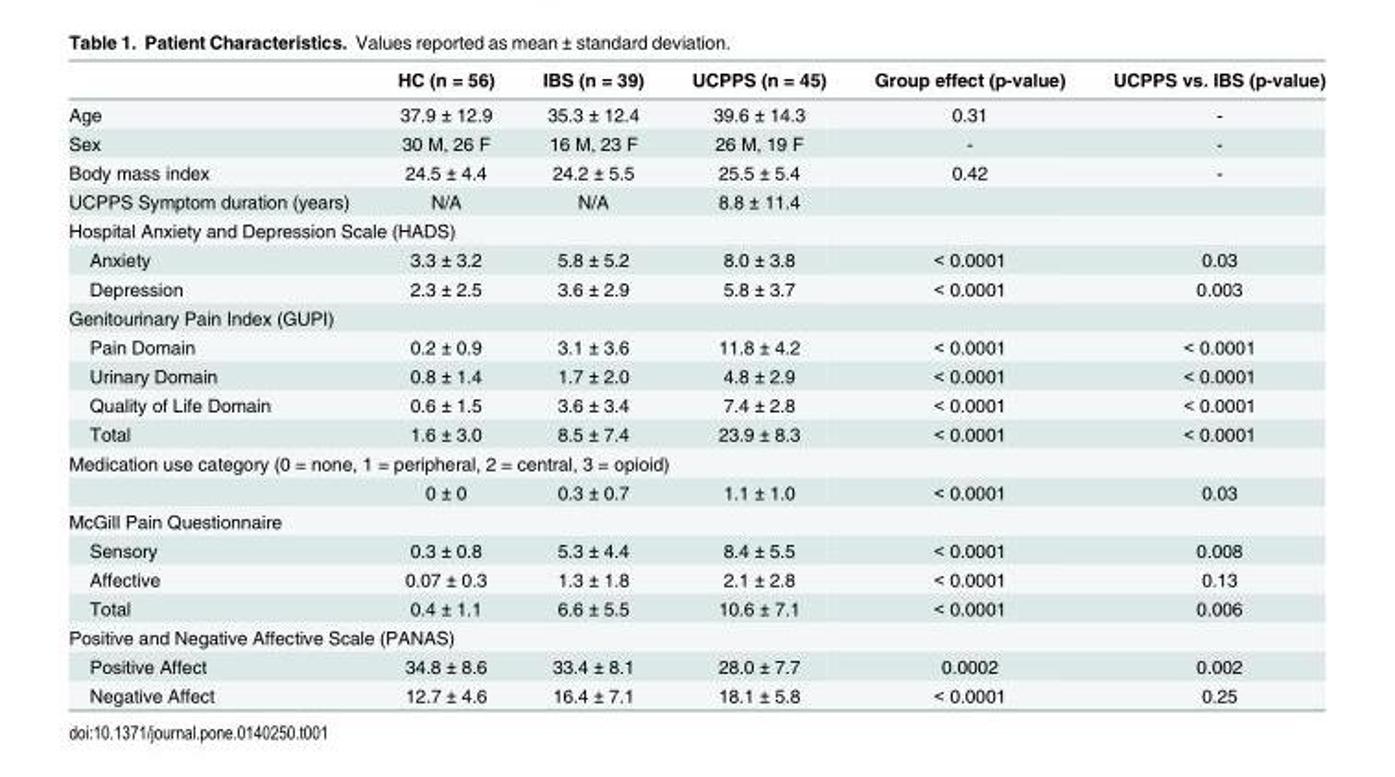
<table><thead><tr><td></td><td>HC (n = 56)</td><td>IBS (n = 39)</td><td>UCPPS (n = 45)</td><td>Group effect (p-value)</td><td>UCPPS vs. IBS (p-value)</td></tr></thead><tbody><tr><td>Age</td><td>37.9 ± 12.9</td><td>35.3 ± 12.4</td><td>39.6 ± 14.3</td><td>0.31</td><td>-</td></tr><tr><td>Sex</td><td>30 M, 26 F</td><td>16 M, 23 F</td><td>26 M, 19 F</td><td>-</td><td>-</td></tr><tr><td>Body mass index</td><td>24.5 ± 4.4</td><td>24.2 ± 5.5</td><td>25.5 ± 5.4</td><td>0.42</td><td>-</td></tr><tr><td>UCPPS Symptom duration (years)</td><td>N/A</td><td>N/A</td><td>8.8 ± 11.4</td><td></td><td></td></tr><tr><td colspan="6">Hospital Anxiety and Depression Scale (HADS)</td></tr><tr><td>Anxiety</td><td>3.3 ± 3.2</td><td>5.8 ± 5.2</td><td>8.0 ± 3.8</td><td>&lt; 0.0001</td><td>0.03</td></tr><tr><td>Depression</td><td>2.3 ± 2.5</td><td>3.6 ± 2.9</td><td>5.8 ± 3.7</td><td>&lt; 0.0001</td><td>0.003</td></tr><tr><td colspan="6">Genitourinary Pain Index (GUPI)</td></tr><tr><td>Pain Domain</td><td>0.2 ± 0.9</td><td>3.1 ± 3.6</td><td>11.8 ± 4.2</td><td>&lt; 0.0001</td><td>&lt; 0.0001</td></tr><tr><td>Urinary Domain</td><td>0.8 ± 1.4</td><td>1.7 ± 2.0</td><td>4.8 ± 2.9</td><td>&lt; 0.0001</td><td>&lt; 0.0001</td></tr><tr><td>Quality of Life Domain</td><td>0.6 ± 1.5</td><td>3.6 ± 3.4</td><td>7.4 ± 2.8</td><td>&lt; 0.0001</td><td>&lt; 0.0001</td></tr><tr><td>Total</td><td>1.6 ± 3.0</td><td>8.5 ± 7.4</td><td>23.9 ± 8.3</td><td>&lt; 0.0001</td><td>&lt; 0.0001</td></tr><tr><td colspan="6">Medication use category (0 = none, 1 = peripheral, 2 = central, 3 = opioid)</td></tr><tr><td></td><td>0 ± 0</td><td>0.3 ± 0.7</td><td>1.1 ± 1.0</td><td>&lt; 0.0001</td><td>0.03</td></tr><tr><td colspan="6">McGill Pain Questionnaire</td></tr><tr><td>Sensory</td><td>0.3 ± 0.8</td><td>5.3 ± 4.4</td><td>8.4 ± 5.5</td><td>&lt; 0.0001</td><td>0.008</td></tr><tr><td>Affective</td><td>0.07 ± 0.3</td><td>1.3 ± 1.8</td><td>2.1 ± 2.8</td><td>&lt; 0.0001</td><td>0.13</td></tr><tr><td>Total</td><td>0.4 ± 1.1</td><td>6.6 ± 5.5</td><td>10.6 ± 7.1</td><td>&lt; 0.0001</td><td>0.006</td></tr><tr><td colspan="6">Positive and Negative Affective Scale (PANAS)</td></tr><tr><td>Positive Affect</td><td>34.8 ± 8.6</td><td>33.4 ± 8.1</td><td>28.0 ± 7.7</td><td>0.0002</td><td>0.002</td></tr><tr><td>Negative Affect</td><td>12.7 ± 4.6</td><td>16.4 ± 7.1</td><td>18.1 ± 5.8</td><td>&lt; 0.0001</td><td>0.25</td></tr></tbody></table>